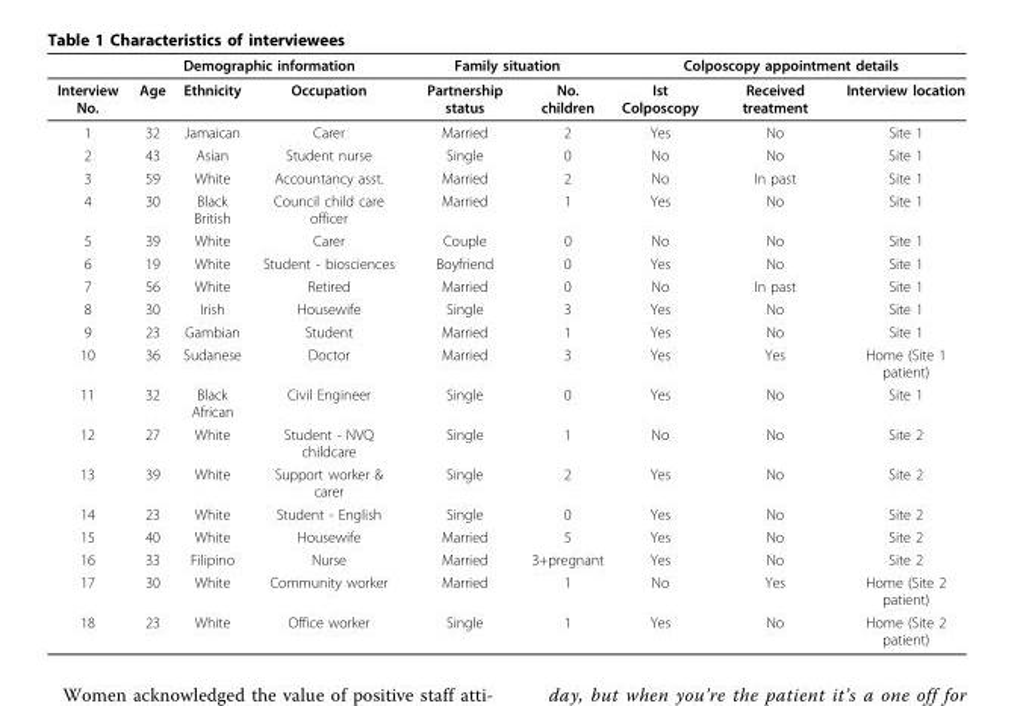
<table><thead><tr><td rowspan="2">Interview No.</td><td colspan="3">Demographic information</td><td colspan="2">Family situation</td><td colspan="3">Colposcopy appointment details</td></tr><tr><td>Age</td><td>Ethnicity</td><td>Occupation</td><td>Partnership status</td><td>No. children</td><td>Ist Colposcopy</td><td>Received treatment</td><td>Interview location</td></tr></thead><tbody><tr><td>1</td><td>32</td><td>Jamaican</td><td>Carer</td><td>Married</td><td>2</td><td>Yes</td><td>No</td><td>Site 1</td></tr><tr><td>2</td><td>43</td><td>Asian</td><td>Student nurse</td><td>Single</td><td>0</td><td>No</td><td>No</td><td>Site 1</td></tr><tr><td>3</td><td>59</td><td>White</td><td>Accountancy asst.</td><td>Married</td><td>2</td><td>No</td><td>In past</td><td>Site 1</td></tr><tr><td>4</td><td>30</td><td>Black British</td><td>Council child care officer</td><td>Married</td><td>1</td><td>Yes</td><td>No</td><td>Site 1</td></tr><tr><td>5</td><td>39</td><td>White</td><td>Carer</td><td>Couple</td><td>0</td><td>No</td><td>No</td><td>Site 1</td></tr><tr><td>6</td><td>19</td><td>White</td><td>Student - biosciences</td><td>Boyfriend</td><td>0</td><td>Yes</td><td>No</td><td>Site 1</td></tr><tr><td>7</td><td>56</td><td>White</td><td>Retired</td><td>Married</td><td>0</td><td>No</td><td>In past</td><td>Site 1</td></tr><tr><td>8</td><td>30</td><td>Irish</td><td>Housewife</td><td>Single</td><td>3</td><td>Yes</td><td>No</td><td>Site 1</td></tr><tr><td>9</td><td>23</td><td>Gambian</td><td>Student</td><td>Married</td><td>1</td><td>Yes</td><td>No</td><td>Site 1</td></tr><tr><td>10</td><td>36</td><td>Sudanese</td><td>Doctor</td><td>Married</td><td>3</td><td>Yes</td><td>Yes</td><td>Home (Site 1 patient)</td></tr><tr><td>11</td><td>32</td><td>Black African</td><td>Civil Engineer</td><td>Single</td><td>0</td><td>Yes</td><td>No</td><td>Site 1</td></tr><tr><td>12</td><td>27</td><td>White</td><td>Student - NVQ childcare</td><td>Single</td><td>1</td><td>No</td><td>No</td><td>Site 2</td></tr><tr><td>13</td><td>39</td><td>White</td><td>Support worker &amp; carer</td><td>Single</td><td>2</td><td>Yes</td><td>No</td><td>Site 2</td></tr><tr><td>14</td><td>23</td><td>White</td><td>Student - English</td><td>Single</td><td>0</td><td>Yes</td><td>No</td><td>Site 2</td></tr><tr><td>15</td><td>40</td><td>White</td><td>Housewife</td><td>Married</td><td>5</td><td>Yes</td><td>No</td><td>Site 2</td></tr><tr><td>16</td><td>33</td><td>Filipino</td><td>Nurse</td><td>Married</td><td>3+pregnant</td><td>Yes</td><td>No</td><td>Site 2</td></tr><tr><td>17</td><td>30</td><td>White</td><td>Community worker</td><td>Married</td><td>1</td><td>No</td><td>Yes</td><td>Home (Site 2 patient)</td></tr><tr><td>18</td><td>23</td><td>White</td><td>Office worker</td><td>Single</td><td>1</td><td>Yes</td><td>No</td><td>Home (Site 2 patient)</td></tr></tbody></table>